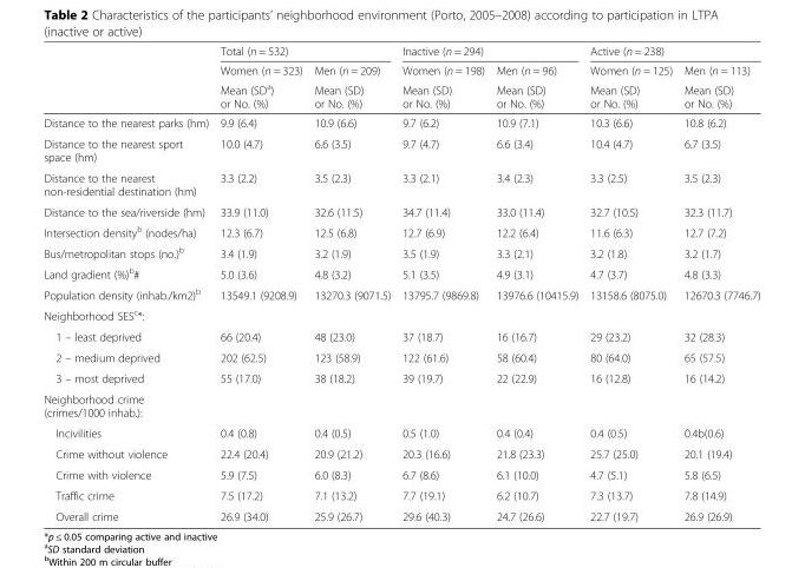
<table><thead><tr><td rowspan="3"></td><td colspan="2">Total (n = 532)</td><td colspan="2">Inactive (n = 294)</td><td colspan="2">Active (n = 238)</td></tr><tr><td rowspan="2">Women (n = 323) Mean (SD<sup>a</sup>) or No. (%)</td><td rowspan="2">Men (n = 209) Mean (SD) or No. (%)</td><td rowspan="2">Women (n = 198) Mean (SD) or No. (%)</td><td rowspan="2">Men (n = 96) Mean (SD) or No. (%)</td><td rowspan="2">Women (n = 125) Mean (SD) or No. (%)</td><td rowspan="2">Men (n = 113) Mean (SD) or No. (%)</td></tr><tr></tr></thead><tbody><tr><td>Distance to the nearest parks (hm)</td><td>9.9 (6.4)</td><td>10.9 (6.6)</td><td>9.7 (6.2)</td><td>10.9 (7.1)</td><td>10.3 (6.6)</td><td>10.8 (6.2)</td></tr><tr><td>Distance to the nearest sport space (hm)</td><td>10.0 (4.7)</td><td>6.6 (3.5)</td><td>9.7 (4.7)</td><td>6.6 (3.4)</td><td>10.4 (4.7)</td><td>6.7 (3.5)</td></tr><tr><td>Distance to the nearest non-residential destination (hm)</td><td>3.3 (2.2)</td><td>3.5 (2.3)</td><td>3.3 (2.1)</td><td>3.4 (2.3)</td><td>3.3 (2.5)</td><td>3.5 (2.3)</td></tr><tr><td>Distance to the sea/riverside (hm)</td><td>33.9 (11.0)</td><td>32.6 (11.5)</td><td>34.7 (11.4)</td><td>33.0 (11.4)</td><td>32.7 (10.5)</td><td>32.3 (11.7)</td></tr><tr><td>Intersection density<sup>b</sup> (nodes/ha)</td><td>12.3 (6.7)</td><td>12.5 (6.8)</td><td>12.7 (6.9)</td><td>12.2 (6.4)</td><td>11.6 (6.3)</td><td>12.7 (7.2)</td></tr><tr><td>Bus/metropolitan stops (no.)<sup>b</sup></td><td>3.4 (1.9)</td><td>3.2 (1.9)</td><td>3.5 (1.9)</td><td>3.3 (2.1)</td><td>3.2 (1.8)</td><td>3.2 (1.7)</td></tr><tr><td>Land gradient (%)<sup>b</sup>#</td><td>5.0 (3.6)</td><td>4.8 (3.2)</td><td>5.1 (3.5)</td><td>4.9 (3.1)</td><td>4.7 (3.7)</td><td>4.8 (3.3)</td></tr><tr><td>Population density (inhab./km2)<sup>b</sup></td><td>13549.1 (9208.9)</td><td>13270.3 (9071.5)</td><td>13795.7 (9869.8)</td><td>13976.6 (10415.9)</td><td>13158.6 (8075.0)</td><td>12670.3 (7746.7)</td></tr><tr><td colspan="7">Neighborhood SES<sup>c</sup>*:</td></tr><tr><td>1 – least deprived</td><td>66 (20.4)</td><td>48 (23.0)</td><td>37 (18.7)</td><td>16 (16.7)</td><td>29 (23.2)</td><td>32 (28.3)</td></tr><tr><td>2 – medium deprived</td><td>202 (62.5)</td><td>123 (58.9)</td><td>122 (61.6)</td><td>58 (60.4)</td><td>80 (64.0)</td><td>65 (57.5)</td></tr><tr><td>3 – most deprived</td><td>55 (17.0)</td><td>38 (18.2)</td><td>39 (19.7)</td><td>22 (22.9)</td><td>16 (12.8)</td><td>16 (14.2)</td></tr><tr><td colspan="7">Neighborhood crime (crimes/1000 inhab.):</td></tr><tr><td>Incivilities</td><td>0.4 (0.8)</td><td>0.4 (0.5)</td><td>0.5 (1.0)</td><td>0.4 (0.4)</td><td>0.4 (0.5)</td><td>0.4b(0.6)</td></tr><tr><td>Crime without violence</td><td>22.4 (20.4)</td><td>20.9 (21.2)</td><td>20.3 (16.6)</td><td>21.8 (23.3)</td><td>25.7 (25.0)</td><td>20.1 (19.4)</td></tr><tr><td>Crime with violence</td><td>5.9 (7.5)</td><td>6.0 (8.3)</td><td>6.7 (8.6)</td><td>6.1 (10.0)</td><td>4.7 (5.1)</td><td>5.8 (6.5)</td></tr><tr><td>Traffic crime</td><td>7.5 (17.2)</td><td>7.1 (13.2)</td><td>7.7 (19.1)</td><td>6.2 (10.7)</td><td>7.3 (13.7)</td><td>7.8 (14.9)</td></tr><tr><td>Overall crime</td><td>26.9 (34.0)</td><td>25.9 (26.7)</td><td>29.6 (40.3)</td><td>24.7 (26.6)</td><td>22.7 (19.7)</td><td>26.9 (26.9)</td></tr></tbody></table>